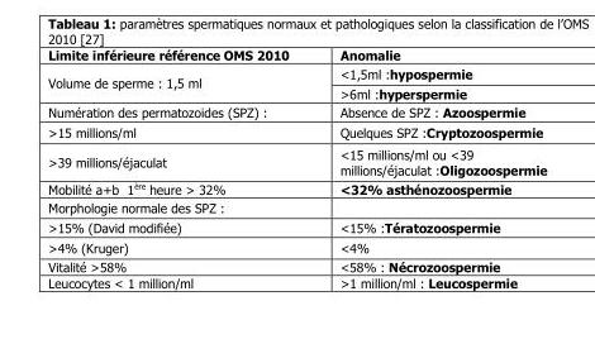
<table><thead><tr><td>Limite inférieure référence OMS 2010</td><td>Anomalie</td></tr></thead><tbody><tr><td rowspan="2">Volume de sperme : 1,5 ml</td><td>&lt;1,5ml :hypospermie</td></tr><tr><td>&gt;6ml :hyperspermie</td></tr><tr><td>Numération des permatozoides (SPZ) :</td><td>Absence de SPZ : Azoospermie</td></tr><tr><td>&gt;15 millions/ml</td><td>Quelques SPZ :Cryptozoospermie</td></tr><tr><td>&gt;39 millions/éjaculat</td><td>&lt;15 millions/ml ou &lt;39 millions/éjaculat :Oligozoospermie</td></tr><tr><td>Mobilité a+b 1<sup>ère</sup> heure &gt; 32%</td><td>&lt;32% asthénozoospermie</td></tr><tr><td colspan="2">Morphologie normale des SPZ :</td></tr><tr><td>&gt;15% (David modifiée)</td><td>&lt;15% :Tératozoospermie</td></tr><tr><td>&gt;4% (Kruger)</td><td>&lt;4%</td></tr><tr><td>Vitalité &gt;58%</td><td>&lt;58% : Nécrozoospermie</td></tr><tr><td>Leucocytes &lt; 1 million/ml</td><td>&gt;1 million/ml : Leucospermie</td></tr></tbody></table>